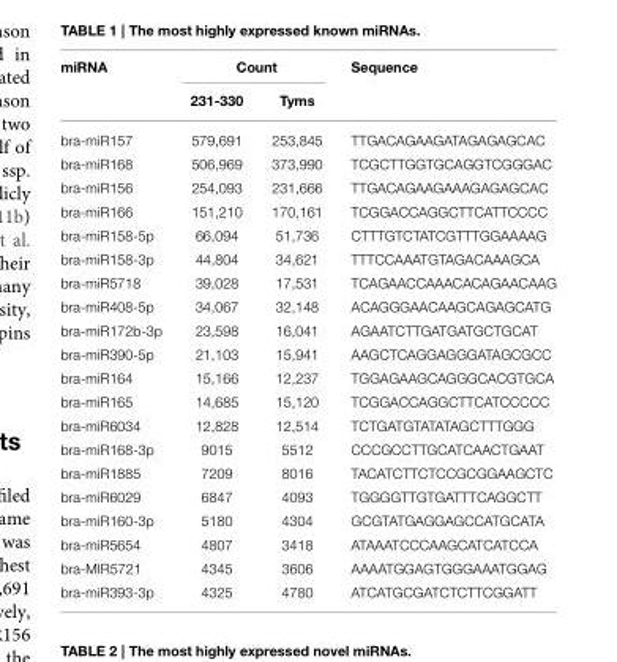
<table><thead><tr><td rowspan="2">miRNA</td><td colspan="2">Count</td><td rowspan="2">Sequence</td></tr><tr><td>231-330</td><td>Tyms</td></tr></thead><tbody><tr><td>bra-miR157</td><td>579,691</td><td>253,845</td><td>TTGACAGAAGATAGAGAGCAC</td></tr><tr><td>bra-miR168</td><td>506,969</td><td>373,990</td><td>TCGCTTGGTGCAGGTCGGGAC</td></tr><tr><td>bra-miR156</td><td>254,093</td><td>231,666</td><td>TTGACAGAAGAAAGAGAGCAC</td></tr><tr><td>bra-miR166</td><td>151,210</td><td>170,161</td><td>TCGGACCAGGCTTCATTCCCC</td></tr><tr><td>bra-miR158-5p</td><td>66,094</td><td>51,736</td><td>CTTTGTCTATCGTTTGGAAAAG</td></tr><tr><td>bra-miR158-3p</td><td>44,804</td><td>34,621</td><td>TTTCCAAATGTAGACAAAGCA</td></tr><tr><td>bra-miR5718</td><td>39,028</td><td>17,531</td><td>TCAGAACCAAACACAGAACAAG</td></tr><tr><td>bra-miR408-5p</td><td>34,067</td><td>32,148</td><td>ACAGGGAACAAGCAGAGCATG</td></tr><tr><td>bra-miR172b-3p</td><td>23,598</td><td>16,041</td><td>AGAATCTTGATGATGCTGCAT</td></tr><tr><td>bra-miR390-5p</td><td>21,103</td><td>15,941</td><td>AAGCTCAGGAGGGATAGCGCC</td></tr><tr><td>bra-miR164</td><td>15,166</td><td>12,237</td><td>TGGAGAAGCAGGGCACGTGCA</td></tr><tr><td>bra-miR165</td><td>14,685</td><td>15,120</td><td>TCGGACCAGGCTTCATCCCCC</td></tr><tr><td>bra-miR6034</td><td>12,828</td><td>12,514</td><td>TCTGATGTATATAGCTTTGGG</td></tr><tr><td>bra-miR168-3p</td><td>9015</td><td>5512</td><td>CCCGCCTTGCATCAACTGAAT</td></tr><tr><td>bra-miR1885</td><td>7209</td><td>8016</td><td>TACATCTTCTCCGCGGAAGCTC</td></tr><tr><td>bra-miR6029</td><td>6847</td><td>4093</td><td>TGGGGTTGTGATTTCAGGCTT</td></tr><tr><td>bra-miR160-3p</td><td>5180</td><td>4304</td><td>GCGTATGAGGAGCCATGCATA</td></tr><tr><td>bra-miR5654</td><td>4807</td><td>3418</td><td>ATAAATCCCAAGCATCATCCA</td></tr><tr><td>bra-MIR5721</td><td>4345</td><td>3606</td><td>AAAATGGAGTGGGAAATGGAG</td></tr><tr><td>bra-miR393-3p</td><td>4325</td><td>4780</td><td>ATCATGCGATCTCTTCGGATT</td></tr></tbody></table>